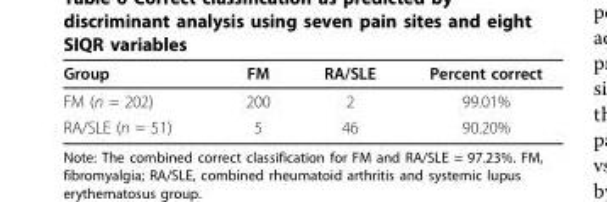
<table><thead><tr><td>Group</td><td>FM</td><td>RA/SLE</td><td>Percent correct</td></tr></thead><tbody><tr><td>FM (n = 202)</td><td>200</td><td>2</td><td>99.01%</td></tr><tr><td>RA/SLE (n = 51)</td><td>5</td><td>46</td><td>90.20%</td></tr></tbody></table>